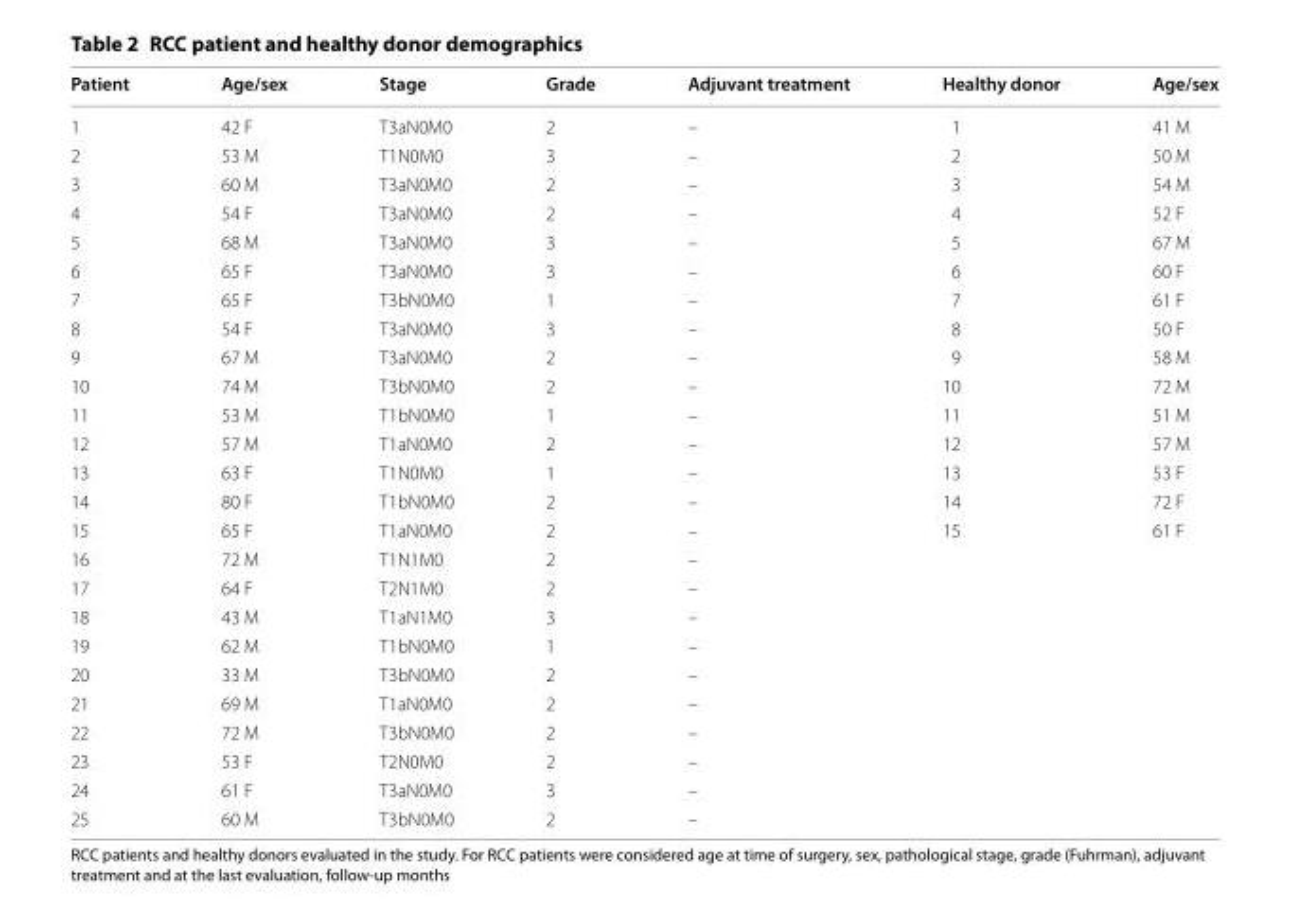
<table><thead><tr><td>Patient</td><td>Age/sex</td><td>Stage</td><td>Grade</td><td>Adjuvant treatment</td><td>Healthy donor</td><td>Age/sex</td></tr></thead><tbody><tr><td>1</td><td>42 F</td><td>T3aN0M0</td><td>2</td><td>–</td><td>1</td><td>41 M</td></tr><tr><td>2</td><td>53 M</td><td>T1N0M0</td><td>3</td><td>–</td><td>2</td><td>50 M</td></tr><tr><td>3</td><td>60 M</td><td>T3aN0M0</td><td>2</td><td>–</td><td>3</td><td>54 M</td></tr><tr><td>4</td><td>54 F</td><td>T3aN0M0</td><td>2</td><td>–</td><td>4</td><td>52 F</td></tr><tr><td>5</td><td>68 M</td><td>T3aN0M0</td><td>3</td><td>–</td><td>5</td><td>67 M</td></tr><tr><td>6</td><td>65 F</td><td>T3aN0M0</td><td>3</td><td>–</td><td>6</td><td>60 F</td></tr><tr><td>7</td><td>65 F</td><td>T3bN0M0</td><td>1</td><td>–</td><td>7</td><td>61 F</td></tr><tr><td>8</td><td>54 F</td><td>T3aN0M0</td><td>3</td><td>–</td><td>8</td><td>50 F</td></tr><tr><td>9</td><td>67 M</td><td>T3aN0M0</td><td>2</td><td>–</td><td>9</td><td>58 M</td></tr><tr><td>10</td><td>74 M</td><td>T3bN0M0</td><td>2</td><td>–</td><td>10</td><td>72 M</td></tr><tr><td>11</td><td>53 M</td><td>T1bN0M0</td><td>1</td><td>–</td><td>11</td><td>51 M</td></tr><tr><td>12</td><td>57 M</td><td>T1aN0M0</td><td>2</td><td>–</td><td>12</td><td>57 M</td></tr><tr><td>13</td><td>63 F</td><td>T1N0M0</td><td>1</td><td>–</td><td>13</td><td>53 F</td></tr><tr><td>14</td><td>80 F</td><td>T1bN0M0</td><td>2</td><td>–</td><td>14</td><td>72 F</td></tr><tr><td>15</td><td>65 F</td><td>T1aN0M0</td><td>2</td><td>–</td><td>15</td><td>61 F</td></tr><tr><td>16</td><td>72 M</td><td>T1N1M0</td><td>2</td><td>–</td><td></td><td></td></tr><tr><td>17</td><td>64 F</td><td>T2N1M0</td><td>2</td><td>–</td><td></td><td></td></tr><tr><td>18</td><td>43 M</td><td>T1aN1M0</td><td>3</td><td>–</td><td></td><td></td></tr><tr><td>19</td><td>62 M</td><td>T1bN0M0</td><td>1</td><td>–</td><td></td><td></td></tr><tr><td>20</td><td>33 M</td><td>T3bN0M0</td><td>2</td><td>–</td><td></td><td></td></tr><tr><td>21</td><td>69 M</td><td>T1aN0M0</td><td>2</td><td>–</td><td></td><td></td></tr><tr><td>22</td><td>72 M</td><td>T3bN0M0</td><td>2</td><td>–</td><td></td><td></td></tr><tr><td>23</td><td>53 F</td><td>T2N0M0</td><td>2</td><td>–</td><td></td><td></td></tr><tr><td>24</td><td>61 F</td><td>T3aN0M0</td><td>3</td><td>–</td><td></td><td></td></tr><tr><td>25</td><td>60 M</td><td>T3bN0M0</td><td>2</td><td>–</td><td></td><td></td></tr></tbody></table>